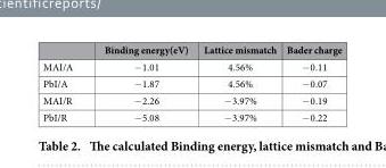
<table><thead><tr><td></td><td>Binding energy(eV)</td><td>Lattice mismatch</td><td>Bader charge</td></tr></thead><tbody><tr><td>MAI/A</td><td>− 1.01</td><td>4.56%</td><td>− 0.11</td></tr><tr><td>PbI/A</td><td>− 1.87</td><td>4.56%</td><td>− 0.07</td></tr><tr><td>MAI/R</td><td>− 2.26</td><td>− 3.97%</td><td>− 0.19</td></tr><tr><td>PbI/R</td><td>− 5.08</td><td>− 3.97%</td><td>− 0.22</td></tr></tbody></table>